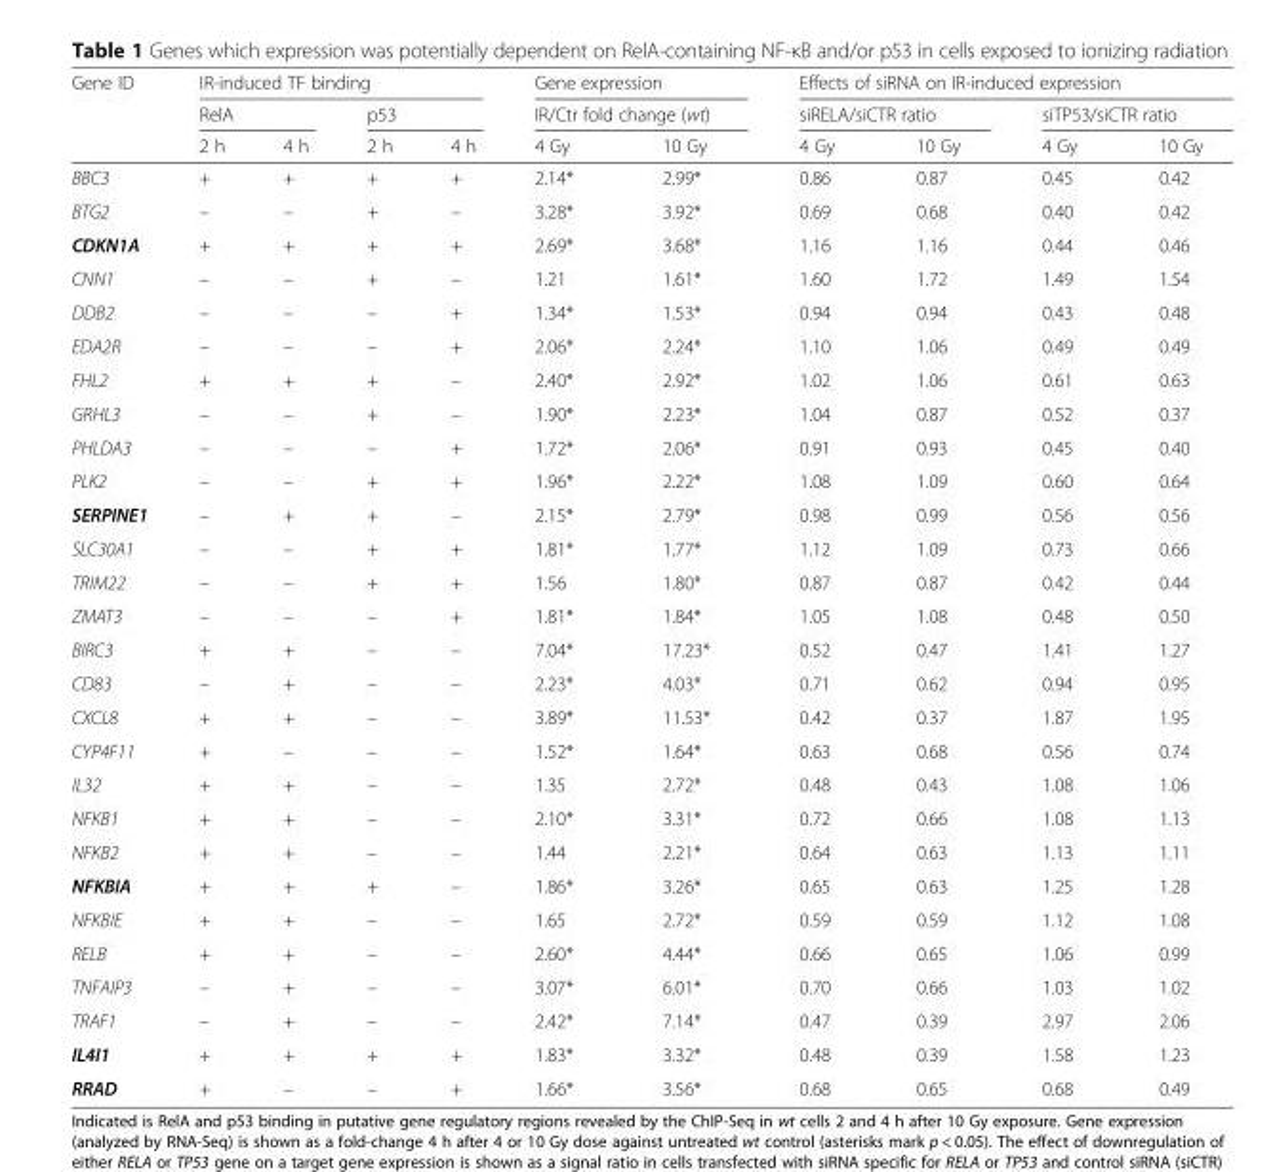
<table><thead><tr><td rowspan="3">Gene ID</td><td colspan="4">IR-induced TF binding</td><td rowspan="2" colspan="2">Gene expression IR/Ctr fold change (wt)</td><td colspan="4">Effects of siRNA on IR-induced expression</td></tr><tr><td colspan="2">RelA</td><td colspan="2">p53</td><td colspan="2">siRELA/siCTR ratio</td><td colspan="2">siTP53/siCTR ratio</td></tr><tr><td>2 h</td><td>4 h</td><td>2 h</td><td>4 h</td><td>4 Gy</td><td>10 Gy</td><td>4 Gy</td><td>10 Gy</td><td>4 Gy</td><td>10 Gy</td></tr></thead><tbody><tr><td>BBC3</td><td>+</td><td>+</td><td>+</td><td>+</td><td>2.14*</td><td>2.99*</td><td>0.86</td><td>0.87</td><td>0.45</td><td>0.42</td></tr><tr><td>BTG2</td><td>–</td><td>–</td><td>+</td><td>–</td><td>3.28*</td><td>3.92*</td><td>0.69</td><td>0.68</td><td>0.40</td><td>0.42</td></tr><tr><td>CDKN1A</td><td>+</td><td>+</td><td>+</td><td>+</td><td>2.69*</td><td>3.68*</td><td>1.16</td><td>1.16</td><td>0.44</td><td>0.46</td></tr><tr><td>CNN1</td><td>–</td><td>–</td><td>+</td><td>–</td><td>1.21</td><td>1.61*</td><td>1.60</td><td>1.72</td><td>1.49</td><td>1.54</td></tr><tr><td>DDB2</td><td>–</td><td>–</td><td>–</td><td>+</td><td>1.34*</td><td>1.53*</td><td>0.94</td><td>0.94</td><td>0.43</td><td>0.48</td></tr><tr><td>EDA2R</td><td>–</td><td>–</td><td>–</td><td>+</td><td>2.06*</td><td>2.24*</td><td>1.10</td><td>1.06</td><td>0.49</td><td>0.49</td></tr><tr><td>FHL2</td><td>+</td><td>+</td><td>+</td><td>–</td><td>2.40*</td><td>2.92*</td><td>1.02</td><td>1.06</td><td>0.61</td><td>0.63</td></tr><tr><td>GRHL3</td><td>–</td><td>–</td><td>+</td><td>–</td><td>1.90*</td><td>2.23*</td><td>1.04</td><td>0.87</td><td>0.52</td><td>0.37</td></tr><tr><td>PHLDA3</td><td>–</td><td>–</td><td>–</td><td>+</td><td>1.72*</td><td>2.06*</td><td>0.91</td><td>0.93</td><td>0.45</td><td>0.40</td></tr><tr><td>PLK2</td><td>–</td><td>–</td><td>+</td><td>+</td><td>1.96*</td><td>2.22*</td><td>1.08</td><td>1.09</td><td>0.60</td><td>0.64</td></tr><tr><td>SERPINE1</td><td>–</td><td>+</td><td>+</td><td>–</td><td>2.15*</td><td>2.79*</td><td>0.98</td><td>0.99</td><td>0.56</td><td>0.56</td></tr><tr><td>SLC30A1</td><td>–</td><td>–</td><td>+</td><td>+</td><td>1.81*</td><td>1.77*</td><td>1.12</td><td>1.09</td><td>0.73</td><td>0.66</td></tr><tr><td>TRIM22</td><td>–</td><td>–</td><td>+</td><td>+</td><td>1.56</td><td>1.80*</td><td>0.87</td><td>0.87</td><td>0.42</td><td>0.44</td></tr><tr><td>ZMAT3</td><td>–</td><td>–</td><td>–</td><td>+</td><td>1.81*</td><td>1.84*</td><td>1.05</td><td>1.08</td><td>0.48</td><td>0.50</td></tr><tr><td>BIRC3</td><td>+</td><td>+</td><td>–</td><td>–</td><td>7.04*</td><td>17.23*</td><td>0.52</td><td>0.47</td><td>1.41</td><td>1.27</td></tr><tr><td>CD83</td><td>–</td><td>+</td><td>–</td><td>–</td><td>2.23*</td><td>4.03*</td><td>0.71</td><td>0.62</td><td>0.94</td><td>0.95</td></tr><tr><td>CXCL8</td><td>+</td><td>+</td><td>–</td><td>–</td><td>3.89*</td><td>11.53*</td><td>0.42</td><td>0.37</td><td>1.87</td><td>1.95</td></tr><tr><td>CYP4F11</td><td>+</td><td>–</td><td>–</td><td>–</td><td>1.52*</td><td>1.64*</td><td>0.63</td><td>0.68</td><td>0.56</td><td>0.74</td></tr><tr><td>IL32</td><td>+</td><td>+</td><td>–</td><td>–</td><td>1.35</td><td>2.72*</td><td>0.48</td><td>0.43</td><td>1.08</td><td>1.06</td></tr><tr><td>NFKB1</td><td>+</td><td>+</td><td>–</td><td>–</td><td>2.10*</td><td>3.31*</td><td>0.72</td><td>0.66</td><td>1.08</td><td>1.13</td></tr><tr><td>NFKB2</td><td>+</td><td>+</td><td>–</td><td>–</td><td>1.44</td><td>2.21*</td><td>0.64</td><td>0.63</td><td>1.13</td><td>1.11</td></tr><tr><td>NFKBIA</td><td>+</td><td>+</td><td>+</td><td>–</td><td>1.86*</td><td>3.26*</td><td>0.65</td><td>0.63</td><td>1.25</td><td>1.28</td></tr><tr><td>NFKBIE</td><td>+</td><td>+</td><td>–</td><td>–</td><td>1.65</td><td>2.72*</td><td>0.59</td><td>0.59</td><td>1.12</td><td>1.08</td></tr><tr><td>RELB</td><td>+</td><td>+</td><td>–</td><td>–</td><td>2.60*</td><td>4.44*</td><td>0.66</td><td>0.65</td><td>1.06</td><td>0.99</td></tr><tr><td>TNFAIP3</td><td>–</td><td>+</td><td>–</td><td>–</td><td>3.07*</td><td>6.01*</td><td>0.70</td><td>0.66</td><td>1.03</td><td>1.02</td></tr><tr><td>TRAF1</td><td>–</td><td>+</td><td>–</td><td>–</td><td>2.42*</td><td>7.14*</td><td>0.47</td><td>0.39</td><td>2.97</td><td>2.06</td></tr><tr><td>IL4I1</td><td>+</td><td>+</td><td>+</td><td>+</td><td>1.83*</td><td>3.32*</td><td>0.48</td><td>0.39</td><td>1.58</td><td>1.23</td></tr><tr><td>RRAD</td><td>+</td><td>–</td><td>–</td><td>+</td><td>1.66*</td><td>3.56*</td><td>0.68</td><td>0.65</td><td>0.68</td><td>0.49</td></tr></tbody></table>